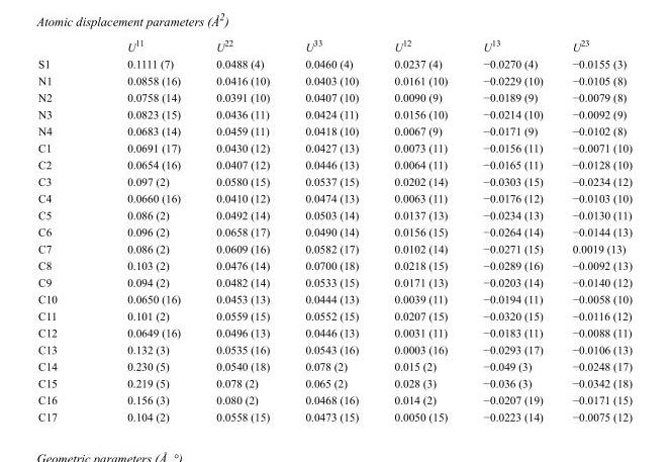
<table><thead><tr><td></td><td>U<sup>11</sup></td><td>U<sup>22</sup></td><td>U<sup>33</sup></td><td>U<sup>12</sup></td><td>U<sup>13</sup></td><td>U<sup>23</sup></td></tr></thead><tbody><tr><td>S1</td><td>0.1111 (7)</td><td>0.0488 (4)</td><td>0.0460 (4)</td><td>0.0237 (4)</td><td>−0.0270 (4)</td><td>−0.0155 (3)</td></tr><tr><td>N1</td><td>0.0858 (16)</td><td>0.0416 (10)</td><td>0.0403 (10)</td><td>0.0161 (10)</td><td>−0.0229 (10)</td><td>−0.0105 (8)</td></tr><tr><td>N2</td><td>0.0758 (14)</td><td>0.0391 (10)</td><td>0.0407 (10)</td><td>0.0090 (9)</td><td>−0.0189 (9)</td><td>−0.0079 (8)</td></tr><tr><td>N3</td><td>0.0823 (15)</td><td>0.0436 (11)</td><td>0.0424 (11)</td><td>0.0156 (10)</td><td>−0.0214 (10)</td><td>−0.0092 (9)</td></tr><tr><td>N4</td><td>0.0683 (14)</td><td>0.0459 (11)</td><td>0.0418 (10)</td><td>0.0067 (9)</td><td>−0.0171 (9)</td><td>−0.0102 (8)</td></tr><tr><td>C1</td><td>0.0691 (17)</td><td>0.0430 (12)</td><td>0.0427 (13)</td><td>0.0073 (11)</td><td>−0.0156 (11)</td><td>−0.0071 (10)</td></tr><tr><td>C2</td><td>0.0654 (16)</td><td>0.0407 (12)</td><td>0.0446 (13)</td><td>0.0064 (11)</td><td>−0.0165 (11)</td><td>−0.0128 (10)</td></tr><tr><td>C3</td><td>0.097 (2)</td><td>0.0580 (15)</td><td>0.0537 (15)</td><td>0.0202 (14)</td><td>−0.0303 (15)</td><td>−0.0234 (12)</td></tr><tr><td>C4</td><td>0.0660 (16)</td><td>0.0410 (12)</td><td>0.0474 (13)</td><td>0.0063 (11)</td><td>−0.0176 (12)</td><td>−0.0103 (10)</td></tr><tr><td>C5</td><td>0.086 (2)</td><td>0.0492 (14)</td><td>0.0503 (14)</td><td>0.0137 (13)</td><td>−0.0234 (13)</td><td>−0.0130 (11)</td></tr><tr><td>C6</td><td>0.096 (2)</td><td>0.0658 (17)</td><td>0.0490 (14)</td><td>0.0156 (15)</td><td>−0.0264 (14)</td><td>−0.0144 (13)</td></tr><tr><td>C7</td><td>0.086 (2)</td><td>0.0609 (16)</td><td>0.0582 (17)</td><td>0.0102 (14)</td><td>−0.0271 (15)</td><td>0.0019 (13)</td></tr><tr><td>C8</td><td>0.103 (2)</td><td>0.0476 (14)</td><td>0.0700 (18)</td><td>0.0218 (15)</td><td>−0.0289 (16)</td><td>−0.0092 (13)</td></tr><tr><td>C9</td><td>0.094 (2)</td><td>0.0482 (14)</td><td>0.0533 (15)</td><td>0.0171 (13)</td><td>−0.0203 (14)</td><td>−0.0140 (12)</td></tr><tr><td>C10</td><td>0.0650 (16)</td><td>0.0453 (13)</td><td>0.0444 (13)</td><td>0.0039 (11)</td><td>−0.0194 (11)</td><td>−0.0058 (10)</td></tr><tr><td>C11</td><td>0.101 (2)</td><td>0.0559 (15)</td><td>0.0552 (15)</td><td>0.0207 (15)</td><td>−0.0320 (15)</td><td>−0.0116 (12)</td></tr><tr><td>C12</td><td>0.0649 (16)</td><td>0.0496 (13)</td><td>0.0446 (13)</td><td>0.0031 (11)</td><td>−0.0183 (11)</td><td>−0.0088 (11)</td></tr><tr><td>C13</td><td>0.132 (3)</td><td>0.0535 (16)</td><td>0.0543 (16)</td><td>0.0003 (16)</td><td>−0.0293 (17)</td><td>−0.0106 (13)</td></tr><tr><td>C14</td><td>0.230 (5)</td><td>0.0540 (18)</td><td>0.078 (2)</td><td>0.015 (2)</td><td>−0.049 (3)</td><td>−0.0248 (17)</td></tr><tr><td>C15</td><td>0.219 (5)</td><td>0.078 (2)</td><td>0.065 (2)</td><td>0.028 (3)</td><td>−0.036 (3)</td><td>−0.0342 (18)</td></tr><tr><td>C16</td><td>0.156 (3)</td><td>0.080 (2)</td><td>0.0468 (16)</td><td>0.014 (2)</td><td>−0.0207 (19)</td><td>−0.0171 (15)</td></tr><tr><td>C17</td><td>0.104 (2)</td><td>0.0558 (15)</td><td>0.0473 (15)</td><td>0.0050 (15)</td><td>−0.0223 (14)</td><td>−0.0075 (12)</td></tr></tbody></table>